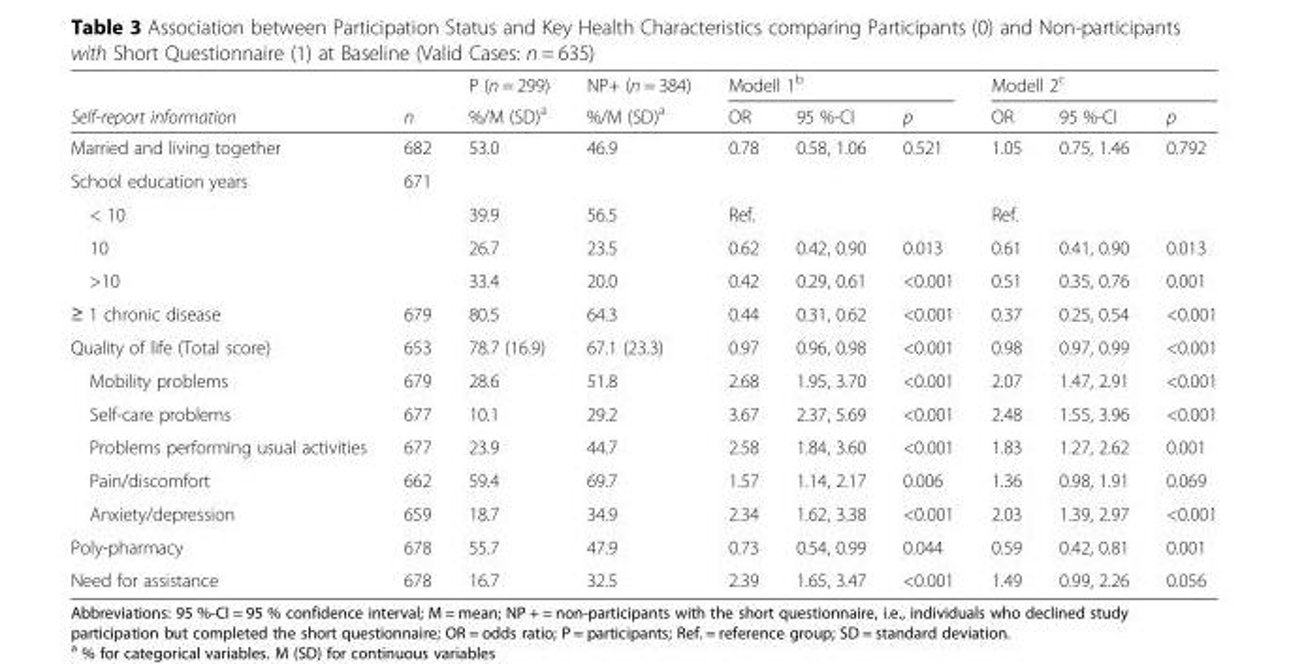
<table><thead><tr><td rowspan="2">Self-report information</td><td rowspan="2">n</td><td rowspan="2">P (n = 299) %/M (SD)<sup>a</sup></td><td rowspan="2">NP+ (n = 384) %/M (SD)<sup>a</sup></td><td colspan="3">Modell 1<sup>b</sup></td><td colspan="3">Modell 2<sup>c</sup></td></tr><tr><td>OR</td><td>95 %-CI</td><td>p</td><td>OR</td><td>95 %-CI</td><td>p</td></tr></thead><tbody><tr><td>Married and living together</td><td>682</td><td>53.0</td><td>46.9</td><td>0.78</td><td>0.58, 1.06</td><td>0.521</td><td>1.05</td><td>0.75, 1.46</td><td>0.792</td></tr><tr><td>School education years</td><td>671</td><td></td><td></td><td></td><td></td><td></td><td></td><td></td><td></td></tr><tr><td>&lt; 10</td><td></td><td>39.9</td><td>56.5</td><td>Ref.</td><td></td><td></td><td>Ref.</td><td></td><td></td></tr><tr><td>10</td><td></td><td>26.7</td><td>23.5</td><td>0.62</td><td>0.42, 0.90</td><td>0.013</td><td>0.61</td><td>0.41, 0.90</td><td>0.013</td></tr><tr><td>&gt;10</td><td></td><td>33.4</td><td>20.0</td><td>0.42</td><td>0.29, 0.61</td><td>&lt;0.001</td><td>0.51</td><td>0.35, 0.76</td><td>0.001</td></tr><tr><td>≥ 1 chronic disease</td><td>679</td><td>80.5</td><td>64.3</td><td>0.44</td><td>0.31, 0.62</td><td>&lt;0.001</td><td>0.37</td><td>0.25, 0.54</td><td>&lt;0.001</td></tr><tr><td>Quality of life (Total score)</td><td>653</td><td>78.7 (16.9)</td><td>67.1 (23.3)</td><td>0.97</td><td>0.96, 0.98</td><td>&lt;0.001</td><td>0.98</td><td>0.97, 0.99</td><td>&lt;0.001</td></tr><tr><td>Mobility problems</td><td>679</td><td>28.6</td><td>51.8</td><td>2.68</td><td>1.95, 3.70</td><td>&lt;0.001</td><td>2.07</td><td>1.47, 2.91</td><td>&lt;0.001</td></tr><tr><td>Self-care problems</td><td>677</td><td>10.1</td><td>29.2</td><td>3.67</td><td>2.37, 5.69</td><td>&lt;0.001</td><td>2.48</td><td>1.55, 3.96</td><td>&lt;0.001</td></tr><tr><td>Problems performing usual activities</td><td>677</td><td>23.9</td><td>44.7</td><td>2.58</td><td>1.84, 3.60</td><td>&lt;0.001</td><td>1.83</td><td>1.27, 2.62</td><td>0.001</td></tr><tr><td>Pain/discomfort</td><td>662</td><td>59.4</td><td>69.7</td><td>1.57</td><td>1.14, 2.17</td><td>0.006</td><td>1.36</td><td>0.98, 1.91</td><td>0.069</td></tr><tr><td>Anxiety/depression</td><td>659</td><td>18.7</td><td>34.9</td><td>2.34</td><td>1.62, 3.38</td><td>&lt;0.001</td><td>2.03</td><td>1.39, 2.97</td><td>&lt;0.001</td></tr><tr><td>Poly-pharmacy</td><td>678</td><td>55.7</td><td>47.9</td><td>0.73</td><td>0.54, 0.99</td><td>0.044</td><td>0.59</td><td>0.42, 0.81</td><td>0.001</td></tr><tr><td>Need for assistance</td><td>678</td><td>16.7</td><td>32.5</td><td>2.39</td><td>1.65, 3.47</td><td>&lt;0.001</td><td>1.49</td><td>0.99, 2.26</td><td>0.056</td></tr></tbody></table>